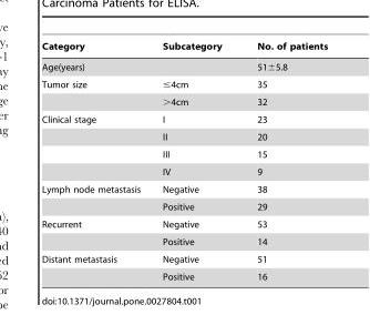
<table><thead><tr><td>Category</td><td>Subcategory</td><td>No. of patients</td></tr></thead><tbody><tr><td>Age(years)</td><td></td><td>51±5.8</td></tr><tr><td rowspan="2">Tumor size</td><td>≤4cm</td><td>35</td></tr><tr><td>&gt;4cm</td><td>32</td></tr><tr><td rowspan="4">Clinical stage</td><td>I</td><td>23</td></tr><tr><td>II</td><td>20</td></tr><tr><td>III</td><td>15</td></tr><tr><td>IV</td><td>9</td></tr><tr><td rowspan="2">Lymph node metastasis</td><td>Negative</td><td>38</td></tr><tr><td>Positive</td><td>29</td></tr><tr><td rowspan="2">Recurrent</td><td>Negative</td><td>53</td></tr><tr><td>Positive</td><td>14</td></tr><tr><td rowspan="2">Distant metastasis</td><td>Negative</td><td>51</td></tr><tr><td>Positive</td><td>16</td></tr></tbody></table>